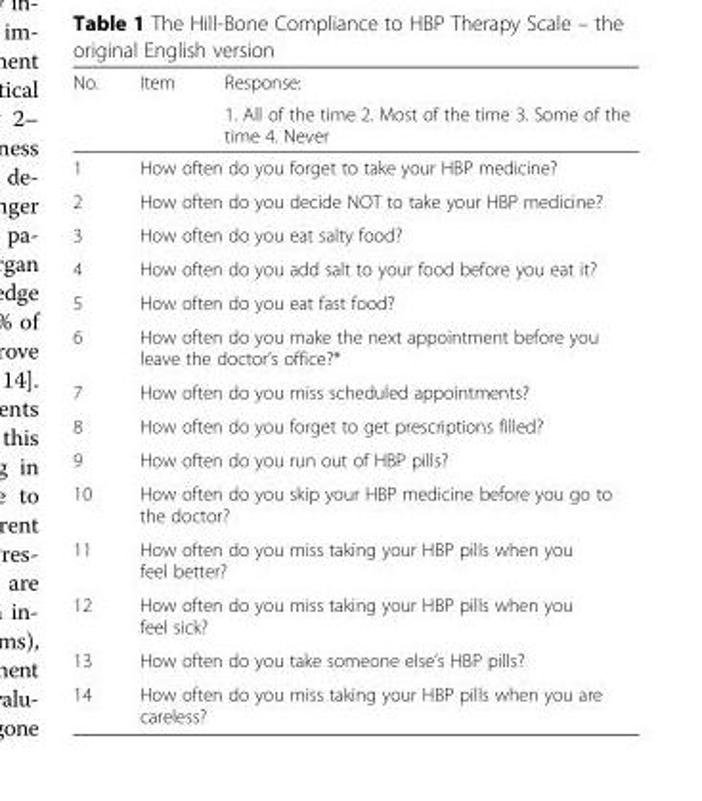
<table><thead><tr><td rowspan="2">No.</td><td rowspan="2">Item</td><td rowspan="2">Response: 1. All of the time 2. Most of the time 3. Some of the time 4. Never</td></tr><tr></tr></thead><tbody><tr><td>1</td><td colspan="2">How often do you forget to take your HBP medicine?</td></tr><tr><td>2</td><td colspan="2">How often do you decide NOT to take your HBP medicine?</td></tr><tr><td>3</td><td colspan="2">How often do you eat salty food?</td></tr><tr><td>4</td><td colspan="2">How often do you add salt to your food before you eat it?</td></tr><tr><td>5</td><td colspan="2">How often do you eat fast food?</td></tr><tr><td>6</td><td colspan="2">How often do you make the next appointment before you leave the doctor’s office?*</td></tr><tr><td>7</td><td colspan="2">How often do you miss scheduled appointments?</td></tr><tr><td>8</td><td colspan="2">How often do you forget to get prescriptions filled?</td></tr><tr><td>9</td><td colspan="2">How often do you run out of HBP pills?</td></tr><tr><td>10</td><td colspan="2">How often do you skip your HBP medicine before you go to the doctor?</td></tr><tr><td>11</td><td colspan="2">How often do you miss taking your HBP pills when you feel better?</td></tr><tr><td>12</td><td colspan="2">How often do you miss taking your HBP pills when you feel sick?</td></tr><tr><td>13</td><td colspan="2">How often do you take someone else’s HBP pills?</td></tr><tr><td>14</td><td colspan="2">How often do you miss taking your HBP pills when you are careless?</td></tr></tbody></table>